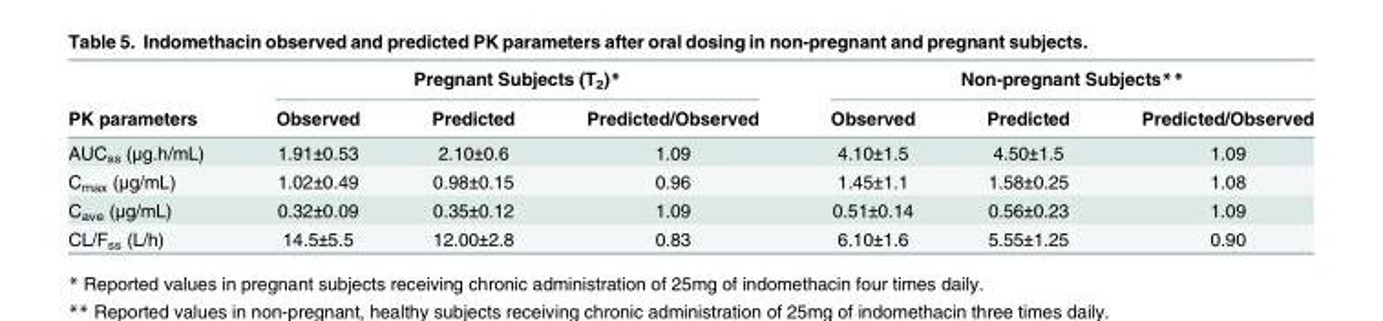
<table><thead><tr><td rowspan="2">PK parameters</td><td colspan="3">Pregnant Subjects (T<sub>2</sub>)*</td><td colspan="3">Non-pregnant Subjects**</td></tr><tr><td>Observed</td><td>Predicted</td><td>Predicted/Observed</td><td>Observed</td><td>Predicted</td><td>Predicted/Observed</td></tr></thead><tbody><tr><td>AUC<sub>ss</sub> (μg.h/mL)</td><td>1.91±0.53</td><td>2.10±0.6</td><td>1.09</td><td>4.10±1.5</td><td>4.50±1.5</td><td>1.09</td></tr><tr><td>C<sub>max</sub> (μg/mL)</td><td>1.02±0.49</td><td>0.98±0.15</td><td>0.96</td><td>1.45±1.1</td><td>1.58±0.25</td><td>1.08</td></tr><tr><td>C<sub>ave</sub> (μg/mL)</td><td>0.32±0.09</td><td>0.35±0.12</td><td>1.09</td><td>0.51±0.14</td><td>0.56±0.23</td><td>1.09</td></tr><tr><td>CL/F<sub>ss</sub> (L/h)</td><td>14.5±5.5</td><td>12.00±2.8</td><td>0.83</td><td>6.10±1.6</td><td>5.55±1.25</td><td>0.90</td></tr></tbody></table>